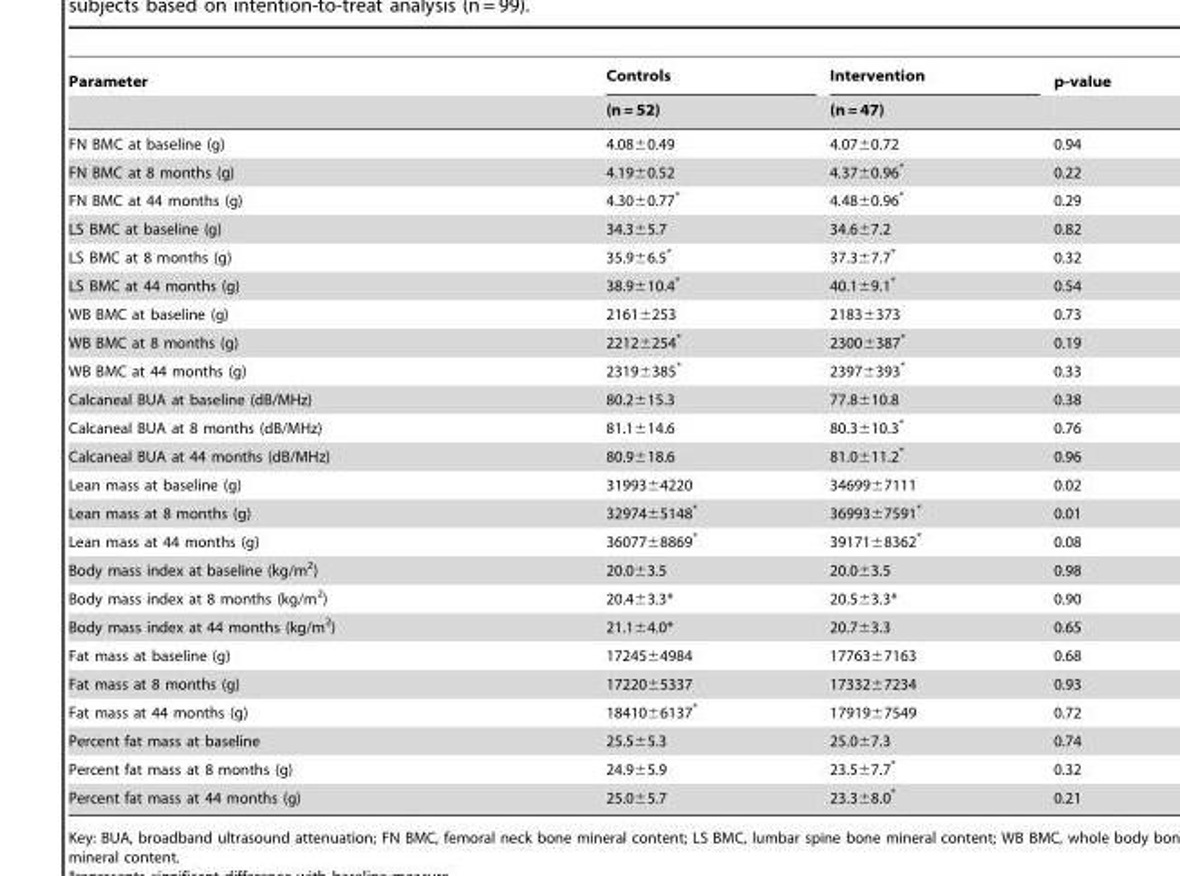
<table><thead><tr><td rowspan="2">Parameter</td><td rowspan="2">Controls (n = 52)</td><td rowspan="2">Intervention (n = 47)</td><td rowspan="2">p-value</td></tr><tr></tr></thead><tbody><tr><td>FN BMC at baseline (g)</td><td>4.08±0.49</td><td>4.07±0.72</td><td>0.94</td></tr><tr><td>FN BMC at 8 months (g)</td><td>4.19±0.52</td><td>4.37±0.96*</td><td>0.22</td></tr><tr><td>FN BMC at 44 months (g)</td><td>4.30±0.77*</td><td>4.48±0.96*</td><td>0.29</td></tr><tr><td>LS BMC at baseline (g)</td><td>34.3±5.7</td><td>34.6±7.2</td><td>0.82</td></tr><tr><td>LS BMC at 8 months (g)</td><td>35.9±6.5*</td><td>37.3±7.7*</td><td>0.32</td></tr><tr><td>LS BMC at 44 months (g)</td><td>38.9±10.4*</td><td>40.1±9.1*</td><td>0.54</td></tr><tr><td>WB BMC at baseline (g)</td><td>2161±253</td><td>2183±373</td><td>0.73</td></tr><tr><td>WB BMC at 8 months (g)</td><td>2212±254*</td><td>2300±387*</td><td>0.19</td></tr><tr><td>WB BMC at 44 months (g)</td><td>2319±385*</td><td>2397±393*</td><td>0.33</td></tr><tr><td>Calcaneal BUA at baseline (dB/MHz)</td><td>80.2±15.3</td><td>77.8±10.8</td><td>0.38</td></tr><tr><td>Calcaneal BUA at 8 months (dB/MHz)</td><td>81.1±14.6</td><td>80.3±10.3*</td><td>0.76</td></tr><tr><td>Calcaneal BUA at 44 months (dB/MHz)</td><td>80.9±18.6</td><td>81.0±11.2*</td><td>0.96</td></tr><tr><td>Lean mass at baseline (g)</td><td>31993±4220</td><td>34699±7111</td><td>0.02</td></tr><tr><td>Lean mass at 8 months (g)</td><td>32974±5148*</td><td>36993±7591*</td><td>0.01</td></tr><tr><td>Lean mass at 44 months (g)</td><td>36077±8869*</td><td>39171±8362*</td><td>0.08</td></tr><tr><td>Body mass index at baseline (kg/m<sup>2</sup>)</td><td>20.0±3.5</td><td>20.0±3.5</td><td>0.98</td></tr><tr><td>Body mass index at 8 months (kg/m<sup>2</sup>)</td><td>20.4±3.3*</td><td>20.5±3.3*</td><td>0.90</td></tr><tr><td>Body mass index at 44 months (kg/m<sup>2</sup>)</td><td>21.1±4.0*</td><td>20.7±3.3</td><td>0.65</td></tr><tr><td>Fat mass at baseline (g)</td><td>17245±4984</td><td>17763±7163</td><td>0.68</td></tr><tr><td>Fat mass at 8 months (g)</td><td>17220±5337</td><td>17332±7234</td><td>0.93</td></tr><tr><td>Fat mass at 44 months (g)</td><td>18410±6137*</td><td>17919±7549</td><td>0.72</td></tr><tr><td>Percent fat mass at baseline</td><td>25.5±5.3</td><td>25.0±7.3</td><td>0.74</td></tr><tr><td>Percent fat mass at 8 months (g)</td><td>24.9±5.9</td><td>23.5±7.7*</td><td>0.32</td></tr><tr><td>Percent fat mass at 44 months (g)</td><td>25.0±5.7</td><td>23.3±8.0*</td><td>0.21</td></tr></tbody></table>